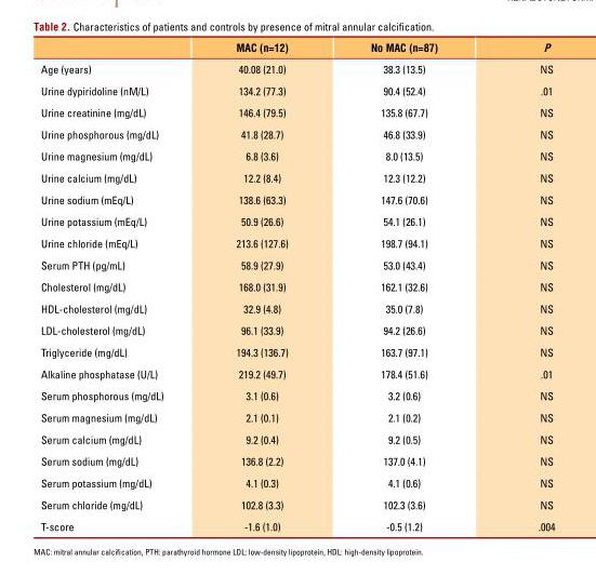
<table><thead><tr><td></td><td>MAC (n=12)</td><td>No MAC (n=87)</td><td>P</td></tr></thead><tbody><tr><td>Age (years)</td><td>40.08 (21.0)</td><td>38.3 (13.5)</td><td>NS</td></tr><tr><td>Urine dypiridoline (nM/L)</td><td>134.2 (77.3)</td><td>90.4 (52.4)</td><td>.01</td></tr><tr><td>Urine creatinine (mg/dL)</td><td>146.4 (79.5)</td><td>135.8 (67.7)</td><td>NS</td></tr><tr><td>Urine phosphorous (mg/dL)</td><td>41.8 (28.7)</td><td>46.8 (33.9)</td><td>NS</td></tr><tr><td>Urine magnesium (mg/dL)</td><td>6.8 (3.6)</td><td>8.0 (13.5)</td><td>NS</td></tr><tr><td>Urine calcium (mg/dL)</td><td>12.2 (8.4)</td><td>12.3 (12.2)</td><td>NS</td></tr><tr><td>Urine sodium (mEq/L)</td><td>138.6 (63.3)</td><td>147.6 (70.6)</td><td>NS</td></tr><tr><td>Urine potassium (mEq/L)</td><td>50.9 (26.6)</td><td>54.1 (26.1)</td><td>NS</td></tr><tr><td>Urine chloride (mEq/L)</td><td>213.6 (127.6)</td><td>198.7 (94.1)</td><td>NS</td></tr><tr><td>Serum PTH (pg/mL)</td><td>58.9 (27.9)</td><td>53.0 (43.4)</td><td>NS</td></tr><tr><td>Cholesterol (mg/dL)</td><td>168.0 (31.9)</td><td>162.1 (32.6)</td><td>NS</td></tr><tr><td>HDL-cholesterol (mg/dL)</td><td>32.9 (4.8)</td><td>35.0 (7.8)</td><td>NS</td></tr><tr><td>LDL-cholesterol (mg/dL)</td><td>96.1 (33.9)</td><td>94.2 (26.6)</td><td>NS</td></tr><tr><td>Triglyceride (mg/dL)</td><td>194.3 (136.7)</td><td>163.7 (97.1)</td><td>NS</td></tr><tr><td>Alkaline phosphatase (U/L)</td><td>219.2 (49.7)</td><td>178.4 (51.6)</td><td>.01</td></tr><tr><td>Serum phosphorous (mg/dL)</td><td>3.1 (0.6)</td><td>3.2 (0.6)</td><td>NS</td></tr><tr><td>Serum magnesium (mg/dL)</td><td>2.1 (0.1)</td><td>2.1 (0.2)</td><td>NS</td></tr><tr><td>Serum calcium (mg/dL)</td><td>9.2 (0.4)</td><td>9.2 (0.5)</td><td>NS</td></tr><tr><td>Serum sodium (mg/dL)</td><td>136.8 (2.2)</td><td>137.0 (4.1)</td><td>NS</td></tr><tr><td>Serum potassium (mg/dL)</td><td>4.1 (0.3)</td><td>4.1 (0.6)</td><td>NS</td></tr><tr><td>Serum chloride (mg/dL)</td><td>102.8 (3.3)</td><td>102.3 (3.6)</td><td>NS</td></tr><tr><td>T-score</td><td>-1.6 (1.0)</td><td>-0.5 (1.2)</td><td>.004</td></tr></tbody></table>